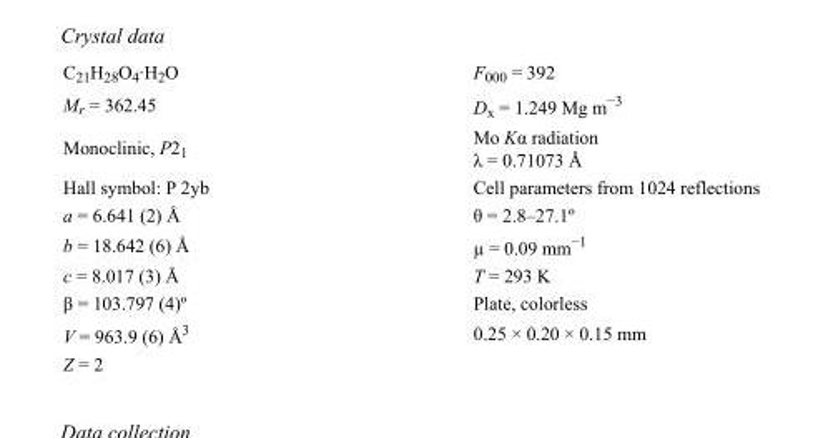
<table><tbody><tr><td>C<sub>21</sub>H<sub>28</sub>O<sub>4</sub>·H<sub>2</sub>O</td><td>F000 = 392</td></tr><tr><td>M<sub>r</sub> = 362.45</td><td>D<sub>x</sub> = 1.249 Mg m<sup>−3</sup></td></tr><tr><td>Monoclinic, P2<sub>1</sub></td><td>Mo Kα radiation λ = 0.71073 Å</td></tr><tr><td>Hall symbol: P 2yb</td><td>Cell parameters from 1024 reflections</td></tr><tr><td>a = 6.641 (2) Å</td><td>θ = 2.8–27.1º</td></tr><tr><td>b = 18.642 (6) Å</td><td>µ = 0.09 mm<sup>−1</sup></td></tr><tr><td>c = 8.017 (3) Å</td><td>T = 293 K</td></tr><tr><td>β = 103.797 (4)º</td><td>Plate, colorless</td></tr><tr><td>V = 963.9 (6) Å<sup>3</sup></td><td>0.25 × 0.20 × 0.15 mm</td></tr><tr><td>Z = 2</td><td></td></tr></tbody></table>